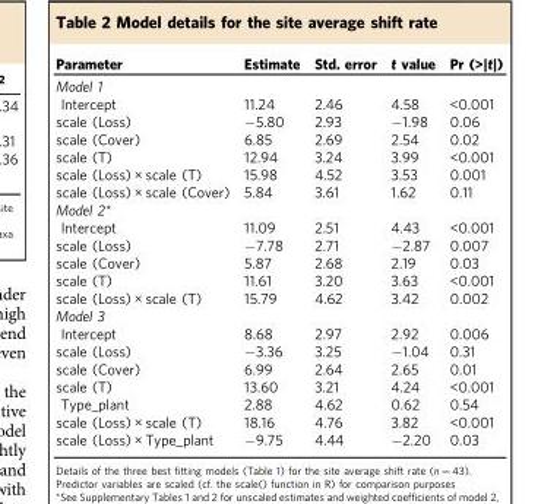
<table><thead><tr><td>Parameter</td><td>Estimate</td><td>Std. error</td><td>t value</td><td>Pr (&gt;|t|)</td></tr></thead><tbody><tr><td colspan="5">Model 1</td></tr><tr><td>Intercept</td><td>11.24</td><td>2.46</td><td>4.58</td><td>&lt;0.001</td></tr><tr><td>scale (Loss)</td><td>−5.80</td><td>2.93</td><td>−1.98</td><td>0.06</td></tr><tr><td>scale (Cover)</td><td>6.85</td><td>2.69</td><td>2.54</td><td>0.02</td></tr><tr><td>scale (T)</td><td>12.94</td><td>3.24</td><td>3.99</td><td>&lt;0.001</td></tr><tr><td>scale (Loss) × scale (T)</td><td>15.98</td><td>4.52</td><td>3.53</td><td>0.001</td></tr><tr><td>scale (Loss) × scale (Cover)</td><td>5.84</td><td>3.61</td><td>1.62</td><td>0.11</td></tr><tr><td colspan="5">Model 2*</td></tr><tr><td>Intercept</td><td>11.09</td><td>2.51</td><td>4.43</td><td>&lt;0.001</td></tr><tr><td>scale (Loss)</td><td>−7.78</td><td>2.71</td><td>−2.87</td><td>0.007</td></tr><tr><td>scale (Cover)</td><td>5.87</td><td>2.68</td><td>2.19</td><td>0.03</td></tr><tr><td>scale (T)</td><td>11.61</td><td>3.20</td><td>3.63</td><td>&lt;0.001</td></tr><tr><td>scale (Loss) × scale (T)</td><td>15.79</td><td>4.62</td><td>3.42</td><td>0.002</td></tr><tr><td colspan="5">Model 3</td></tr><tr><td>Intercept</td><td>8.68</td><td>2.97</td><td>2.92</td><td>0.006</td></tr><tr><td>scale (Loss)</td><td>−3.36</td><td>3.25</td><td>−1.04</td><td>0.31</td></tr><tr><td>scale (Cover)</td><td>6.99</td><td>2.64</td><td>2.65</td><td>0.01</td></tr><tr><td>scale (T)</td><td>13.60</td><td>3.21</td><td>4.24</td><td>&lt;0.001</td></tr><tr><td>Type_plant</td><td>2.88</td><td>4.62</td><td>0.62</td><td>0.54</td></tr><tr><td>scale (Loss) × scale (T)</td><td>18.16</td><td>4.76</td><td>3.82</td><td>&lt;0.001</td></tr><tr><td>scale (Loss) × Type_plant</td><td>−9.75</td><td>4.44</td><td>−2.20</td><td>0.03</td></tr></tbody></table>